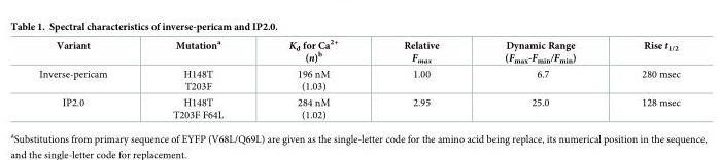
<table><thead><tr><td>Variant</td><td>Mutation<sup>a</sup></td><td>K<sub>d</sub> for Ca<sup>2+</sup> (n)<sup>b</sup></td><td>Relative F<sub>max</sub></td><td>Dynamic Range (F<sub>max</sub>-F<sub>min</sub>/F<sub>min</sub>)</td><td>Rise t<sub>1/2</sub></td></tr></thead><tbody><tr><td>Inverse-pericam</td><td>H148T T203F</td><td>196 nM (1.03)</td><td>1.00</td><td>6.7</td><td>280 msec</td></tr><tr><td>IP2.0</td><td>H148T T203F F64L</td><td>284 nM (1.02)</td><td>2.95</td><td>25.0</td><td>128 msec</td></tr></tbody></table>